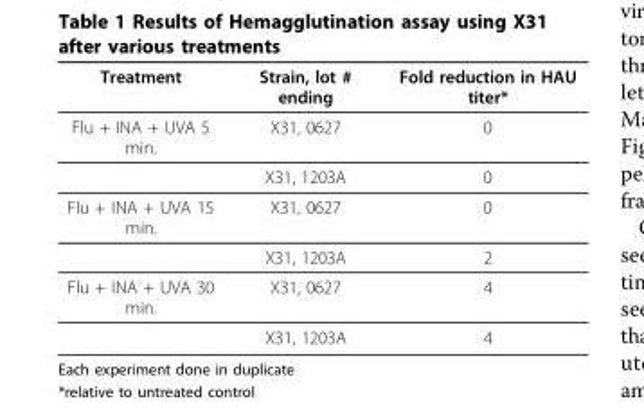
<table><thead><tr><td>Treatment</td><td>Strain, lot # ending</td><td>Fold reduction in HAU titer*</td></tr></thead><tbody><tr><td rowspan="2">Flu + INA + UVA 5 min.</td><td>X31, 0627</td><td>0</td></tr><tr><td>X31, 1203A</td><td>0</td></tr><tr><td rowspan="2">Flu + INA + UVA 15 min.</td><td>X31, 0627</td><td>0</td></tr><tr><td>X31, 1203A</td><td>2</td></tr><tr><td rowspan="2">Flu + INA + UVA 30 min.</td><td>X31, 0627</td><td>4</td></tr><tr><td>X31, 1203A</td><td>4</td></tr></tbody></table>